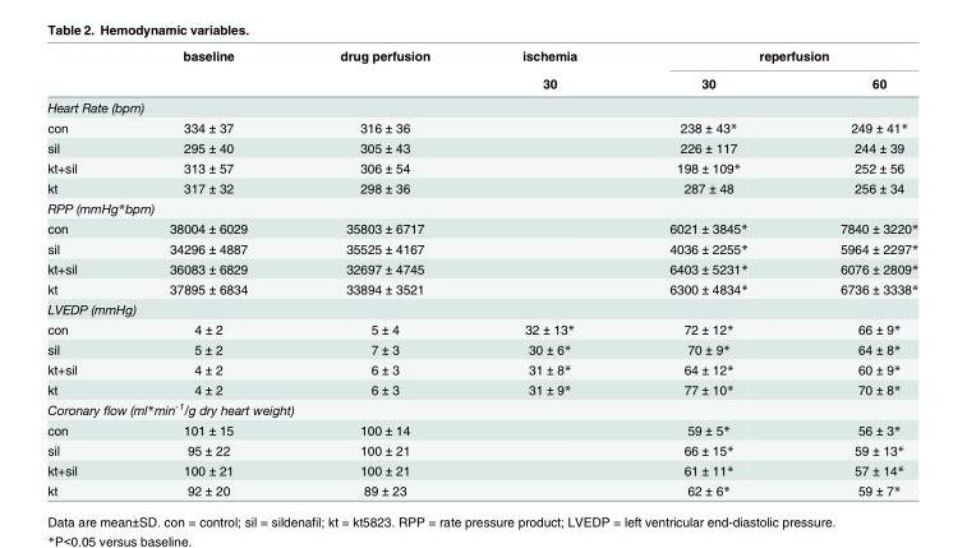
<table><thead><tr><td rowspan="2"></td><td rowspan="2">baseline</td><td rowspan="2">drug perfusion</td><td rowspan="2">ischemia 30</td><td colspan="2">reperfusion</td></tr><tr><td>30</td><td>60</td></tr></thead><tbody><tr><td colspan="6">Heart Rate (bpm)</td></tr><tr><td>con</td><td>334 ± 37</td><td>316 ± 36</td><td></td><td>238 ± 43*</td><td>249 ± 41*</td></tr><tr><td>sil</td><td>295 ± 40</td><td>305 ± 43</td><td></td><td>226 ± 117</td><td>244 ± 39</td></tr><tr><td>kt+sil</td><td>313 ± 57</td><td>306 ± 54</td><td></td><td>198 ± 109*</td><td>252 ± 56</td></tr><tr><td>kt</td><td>317 ± 32</td><td>298 ± 36</td><td></td><td>287 ± 48</td><td>256 ± 34</td></tr><tr><td colspan="6">RPP (mmHg*bpm)</td></tr><tr><td>con</td><td>38004 ± 6029</td><td>35803 ± 6717</td><td></td><td>6021 ± 3845*</td><td>7840 ± 3220*</td></tr><tr><td>sil</td><td>34296 ± 4887</td><td>35525 ± 4167</td><td></td><td>4036 ± 2255*</td><td>5964 ± 2297*</td></tr><tr><td>kt+sil</td><td>36083 ± 6829</td><td>32697 ± 4745</td><td></td><td>6403 ± 5231*</td><td>6076 ± 2809*</td></tr><tr><td>kt</td><td>37895 ± 6834</td><td>33894 ± 3521</td><td></td><td>6300 ± 4834*</td><td>6736 ± 3338*</td></tr><tr><td colspan="6">LVEDP (mmHg)</td></tr><tr><td>con</td><td>4 ± 2</td><td>5 ± 4</td><td>32 ± 13*</td><td>72 ± 12*</td><td>66 ± 9*</td></tr><tr><td>sil</td><td>5 ± 2</td><td>7 ± 3</td><td>30 ± 6*</td><td>70 ± 9*</td><td>64 ± 8*</td></tr><tr><td>kt+sil</td><td>4 ± 2</td><td>6 ± 3</td><td>31 ± 8*</td><td>64 ± 12*</td><td>60 ± 9*</td></tr><tr><td>kt</td><td>4 ± 2</td><td>6 ± 3</td><td>31 ± 9*</td><td>77 ± 10*</td><td>70 ± 8*</td></tr><tr><td colspan="6">Coronary flow (ml*min<sup>-1</sup>/g dry heart weight)</td></tr><tr><td>con</td><td>101 ± 15</td><td>100 ± 14</td><td></td><td>59 ± 5*</td><td>56 ± 3*</td></tr><tr><td>sil</td><td>95 ± 22</td><td>100 ± 21</td><td></td><td>66 ± 15*</td><td>59 ± 13*</td></tr><tr><td>kt+sil</td><td>100 ± 21</td><td>100 ± 21</td><td></td><td>61 ± 11*</td><td>57 ± 14*</td></tr><tr><td>kt</td><td>92 ± 20</td><td>89 ± 23</td><td></td><td>62 ± 6*</td><td>59 ± 7*</td></tr></tbody></table>